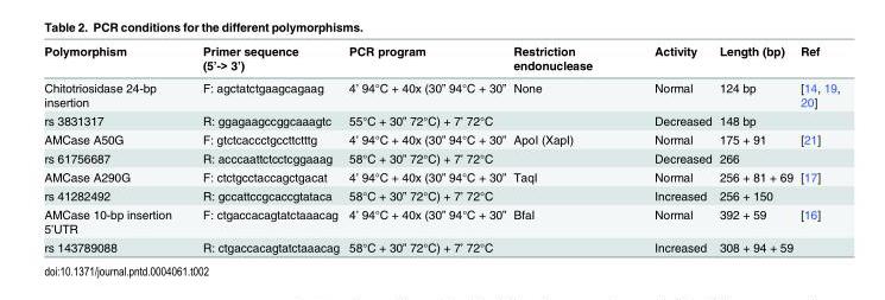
<table><thead><tr><td>Polymorphism</td><td>Primer sequence (5’-&gt; 3’)</td><td>PCR program</td><td>Restriction endonuclease</td><td>Activity</td><td>Length (bp)</td><td>Ref</td></tr></thead><tbody><tr><td>Chitotriosidase 24-bp insertion</td><td>F: agctatctgaagcagaag</td><td>4’ 94°C + 40x (30” 94°C + 30”</td><td>None</td><td>Normal</td><td>124 bp</td><td>[14, 19, 20]</td></tr><tr><td>rs 3831317</td><td>R: ggagaagccggcaaagtc</td><td>55°C + 30” 72°C) + 7’ 72°C</td><td></td><td>Decreased</td><td>148 bp</td><td></td></tr><tr><td>AMCase A50G</td><td>F: gtctcaccctgccttctttg</td><td>4’ 94°C + 40x (30” 94°C + 30”</td><td>ApoI (XapI)</td><td>Normal</td><td>175 + 91</td><td>[21]</td></tr><tr><td>rs 61756687</td><td>R: acccaattctcctcggaaag</td><td>58°C + 30” 72°C) + 7’ 72°C</td><td></td><td>Decreased</td><td>266</td><td></td></tr><tr><td>AMCase A290G</td><td>F: ctctgcctaccagctgacat</td><td>4’ 94°C + 40x (30” 94°C + 30”</td><td>TaqI</td><td>Normal</td><td>256 + 81 + 69</td><td>[17]</td></tr><tr><td>rs 41282492</td><td>R: gccattccgcaccgtataca</td><td>58°C + 30” 72°C) + 7’ 72°C</td><td></td><td>Increased</td><td>256 + 150</td><td></td></tr><tr><td>AMCase 10-bp insertion 5’UTR</td><td>F: ctgaccacagtatctaaacag</td><td>4’ 94°C + 40x (30” 94°C + 30”</td><td>BfaI</td><td>Normal</td><td>392 + 59</td><td>[16]</td></tr><tr><td>rs 143789088</td><td>R: ctgaccacagtatctaaacag</td><td>58°C + 30” 72°C) + 7’ 72°C</td><td></td><td>Increased</td><td>308 + 94 + 59</td><td></td></tr></tbody></table>